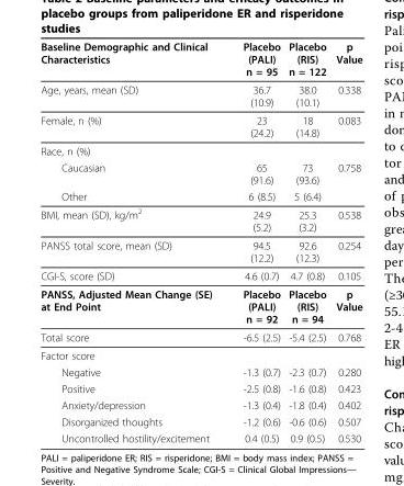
<table><thead><tr><td>Baseline Demographic and Clinical Characteristics</td><td>Placebo (PALI) n = 95</td><td>Placebo (RIS) n = 122</td><td>p Value</td></tr></thead><tbody><tr><td>Age, years, mean (SD)</td><td>36.7 (10.9)</td><td>38.0 (10.1)</td><td>0.338</td></tr><tr><td>Female, n (%)</td><td>23 (24.2)</td><td>18 (14.8)</td><td>0.083</td></tr><tr><td colspan="4">Race, n (%)</td></tr><tr><td>Caucasian</td><td>65 (91.6)</td><td>73 (93.6)</td><td>0.758</td></tr><tr><td>Other</td><td>6 (8.5)</td><td>5 (6.4)</td><td></td></tr><tr><td>BMI, mean (SD), kg/m<sup>2</sup></td><td>24.9 (5.2)</td><td>25.3 (3.2)</td><td>0.538</td></tr><tr><td>PANSS total score, mean (SD)</td><td>94.5 (12.2)</td><td>92.6 (12.3)</td><td>0.254</td></tr><tr><td>CGI-S, score (SD)</td><td>4.6 (0.7)</td><td>4.7 (0.8)</td><td>0.105</td></tr><tr><td>PANSS, Adjusted Mean Change (SE) at End Point</td><td>Placebo (PALI) n = 92</td><td>Placebo (RIS) n = 94</td><td>p Value</td></tr><tr><td>Total score</td><td>-6.5 (2.5)</td><td>-5.4 (2.5)</td><td>0.768</td></tr><tr><td colspan="4">Factor score</td></tr><tr><td>Negative</td><td>-1.3 (0.7)</td><td>-2.3 (0.7)</td><td>0.280</td></tr><tr><td>Positive</td><td>-2.5 (0.8)</td><td>-1.6 (0.8)</td><td>0.423</td></tr><tr><td>Anxiety/depression</td><td>-1.3 (0.4)</td><td>-1.8 (0.4)</td><td>0.402</td></tr><tr><td>Disorganized thoughts</td><td>-1.2 (0.6)</td><td>-0.6 (0.6)</td><td>0.507</td></tr><tr><td>Uncontrolled hostility/excitement</td><td>0.4 (0.5)</td><td>0.9 (0.5)</td><td>0.530</td></tr></tbody></table>